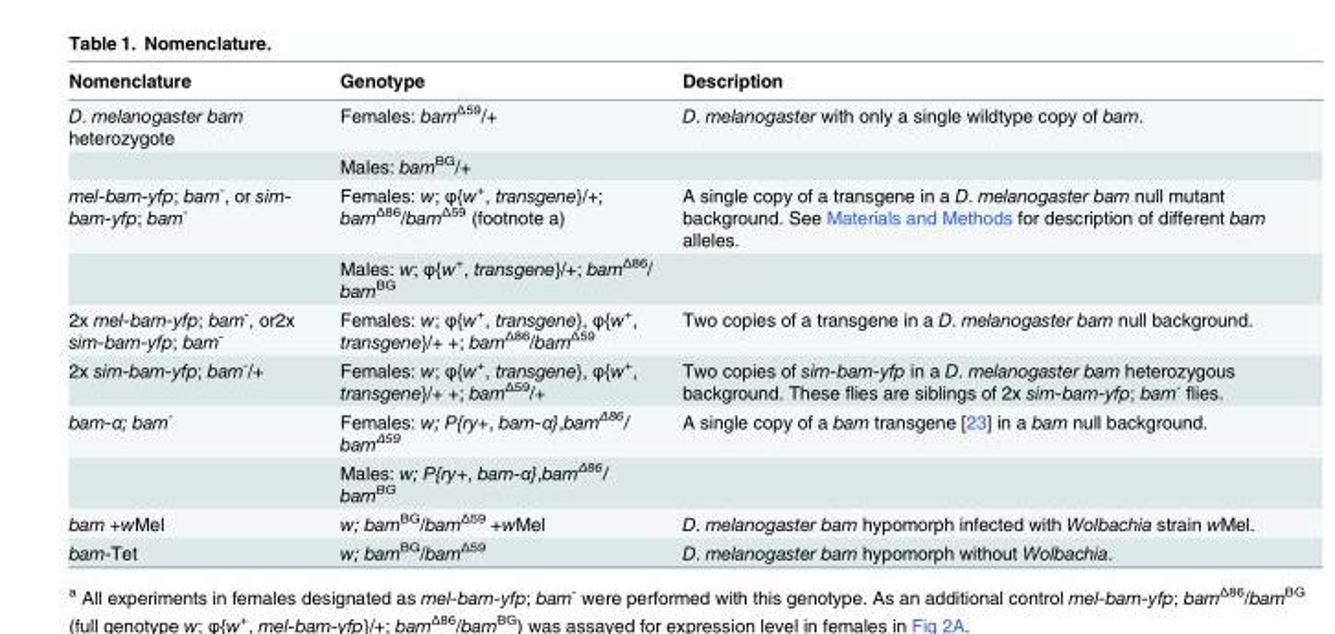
<table><thead><tr><td>Nomenclature</td><td>Genotype</td><td>Description</td></tr></thead><tbody><tr><td rowspan="2">D. melanogaster bam heterozygote</td><td>Females: bam<sup>Δ59</sup>/+</td><td>D. melanogaster with only a single wildtype copy of bam.</td></tr><tr><td>Males: bam<sup>BG</sup>/+</td><td></td></tr><tr><td rowspan="2">mel-bam-yfp; bam<sup>-</sup>, or sim- bam-yfp; bam<sup>-</sup></td><td>Females: w; φ{w<sup>+</sup>, transgene}/+; bam<sup>Δ86</sup>/bam<sup>Δ59</sup> (footnote a)</td><td>A single copy of a transgene in a D. melanogaster bam null mutant background. See Materials and Methods for description of different bam alleles.</td></tr><tr><td>Males: w; φ{w<sup>+</sup>, transgene}/+; bam<sup>Δ86</sup>/ bam<sup>BG</sup></td><td></td></tr><tr><td>2x mel-bam-yfp; bam<sup>-</sup>, or2x sim-bam-yfp; bam<sup>-</sup></td><td>Females: w; φ{w<sup>+</sup>, transgene}, φ{w<sup>+</sup>, transgene}/+ +; bam<sup>Δ86</sup>/bam<sup>Δ59</sup></td><td>Two copies of a transgene in a D. melanogaster bam null background.</td></tr><tr><td>2x sim-bam-yfp; bam<sup>-</sup>/+</td><td>Females: w; φ{w<sup>+</sup>, transgene}, φ{w<sup>+</sup>, transgene}/+ +; bam<sup>Δ59</sup>/+</td><td>Two copies of sim-bam-yfp in a D. melanogaster bam heterozygous background. These flies are siblings of 2x sim-bam-yfp; bam<sup>-</sup> flies.</td></tr><tr><td rowspan="2">bam-α; bam<sup>-</sup></td><td>Females: w; P{ry+, bam-α},bam<sup>Δ86</sup>/ bam<sup>Δ59</sup></td><td>A single copy of a bam transgene [23] in a bam null background.</td></tr><tr><td>Males: w; P{ry+, bam-α},bam<sup>Δ86</sup>/ bam<sup>BG</sup></td><td></td></tr><tr><td>bam +wMel</td><td>w; bam<sup>BG</sup>/bam<sup>Δ59</sup> +wMel</td><td>D. melanogaster bam hypomorph infected with Wolbachia strain wMel.</td></tr><tr><td>bam-Tet</td><td>w; bam<sup>BG</sup>/bam<sup>Δ59</sup></td><td>D. melanogaster bam hypomorph without Wolbachia.</td></tr></tbody></table>